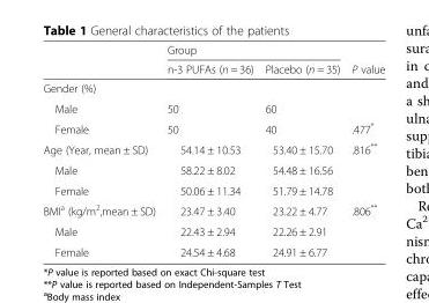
<table><thead><tr><td rowspan="2"></td><td colspan="2">Group</td><td rowspan="2">P value</td></tr><tr><td>n-3 PUFAs (n = 36)</td><td>Placebo (n = 35)</td></tr></thead><tbody><tr><td colspan="4">Gender (%)</td></tr><tr><td>Male</td><td>50</td><td>60</td><td></td></tr><tr><td>Female</td><td>50</td><td>40</td><td>.477*</td></tr><tr><td>Age (Year, mean ± SD)</td><td>54.14 ± 10.53</td><td>53.40 ± 15.70</td><td>.816**</td></tr><tr><td>Male</td><td>58.22 ± 8.02</td><td>54.48 ± 16.56</td><td></td></tr><tr><td>Female</td><td>50.06 ± 11.34</td><td>51.79 ± 14.78</td><td></td></tr><tr><td>BMI<sup>a</sup> (kg/m<sup>2</sup>,mean ± SD)</td><td>23.47 ± 3.40</td><td>23.22 ± 4.77</td><td>.806**</td></tr><tr><td>Male</td><td>22.43 ± 2.94</td><td>22.26 ± 2.91</td><td></td></tr><tr><td>Female</td><td>24.54 ± 4.68</td><td>24.91 ± 6.77</td><td></td></tr></tbody></table>